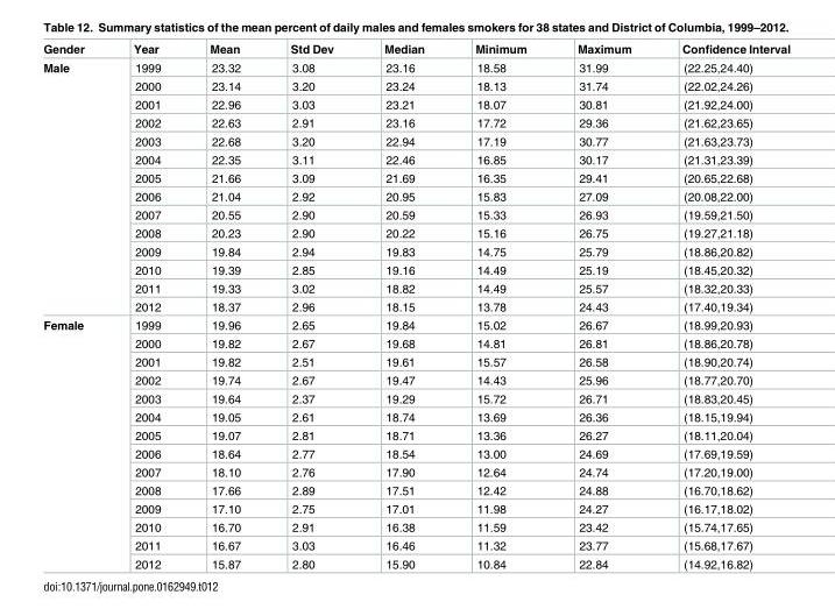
<table><thead><tr><td>Gender</td><td>Year</td><td>Mean</td><td>Std Dev</td><td>Median</td><td>Minimum</td><td>Maximum</td><td>Confidence Interval</td></tr></thead><tbody><tr><td rowspan="14">Male</td><td>1999</td><td>23.32</td><td>3.08</td><td>23.16</td><td>18.58</td><td>31.99</td><td>(22.25,24.40)</td></tr><tr><td>2000</td><td>23.14</td><td>3.20</td><td>23.24</td><td>18.13</td><td>31.74</td><td>(22.02,24.26)</td></tr><tr><td>2001</td><td>22.96</td><td>3.03</td><td>23.21</td><td>18.07</td><td>30.81</td><td>(21.92,24.00)</td></tr><tr><td>2002</td><td>22.63</td><td>2.91</td><td>23.16</td><td>17.72</td><td>29.36</td><td>(21.62,23.65)</td></tr><tr><td>2003</td><td>22.68</td><td>3.20</td><td>22.94</td><td>17.19</td><td>30.77</td><td>(21.63,23.73)</td></tr><tr><td>2004</td><td>22.35</td><td>3.11</td><td>22.46</td><td>16.85</td><td>30.17</td><td>(21.31,23.39)</td></tr><tr><td>2005</td><td>21.66</td><td>3.09</td><td>21.69</td><td>16.35</td><td>29.41</td><td>(20.65,22.68)</td></tr><tr><td>2006</td><td>21.04</td><td>2.92</td><td>20.95</td><td>15.83</td><td>27.09</td><td>(20.08,22.00)</td></tr><tr><td>2007</td><td>20.55</td><td>2.90</td><td>20.59</td><td>15.33</td><td>26.93</td><td>(19.59,21.50)</td></tr><tr><td>2008</td><td>20.23</td><td>2.90</td><td>20.22</td><td>15.16</td><td>26.75</td><td>(19.27,21.18)</td></tr><tr><td>2009</td><td>19.84</td><td>2.94</td><td>19.83</td><td>14.75</td><td>25.79</td><td>(18.86,20.82)</td></tr><tr><td>2010</td><td>19.39</td><td>2.85</td><td>19.16</td><td>14.49</td><td>25.19</td><td>(18.45,20.32)</td></tr><tr><td>2011</td><td>19.33</td><td>3.02</td><td>18.82</td><td>14.49</td><td>25.57</td><td>(18.32,20.33)</td></tr><tr><td>2012</td><td>18.37</td><td>2.96</td><td>18.15</td><td>13.78</td><td>24.43</td><td>(17.40,19.34)</td></tr><tr><td rowspan="14">Female</td><td>1999</td><td>19.96</td><td>2.65</td><td>19.84</td><td>15.02</td><td>26.67</td><td>(18.99,20.93)</td></tr><tr><td>2000</td><td>19.82</td><td>2.67</td><td>19.68</td><td>14.81</td><td>26.81</td><td>(18.86,20.78)</td></tr><tr><td>2001</td><td>19.82</td><td>2.51</td><td>19.61</td><td>15.57</td><td>26.58</td><td>(18.90,20.74)</td></tr><tr><td>2002</td><td>19.74</td><td>2.67</td><td>19.47</td><td>14.43</td><td>25.96</td><td>(18.77,20.70)</td></tr><tr><td>2003</td><td>19.64</td><td>2.37</td><td>19.29</td><td>15.72</td><td>26.71</td><td>(18.83,20.45)</td></tr><tr><td>2004</td><td>19.05</td><td>2.61</td><td>18.74</td><td>13.69</td><td>26.36</td><td>(18.15,19.94)</td></tr><tr><td>2005</td><td>19.07</td><td>2.81</td><td>18.71</td><td>13.36</td><td>26.27</td><td>(18.11,20.04)</td></tr><tr><td>2006</td><td>18.64</td><td>2.77</td><td>18.54</td><td>13.00</td><td>24.69</td><td>(17.69,19.59)</td></tr><tr><td>2007</td><td>18.10</td><td>2.76</td><td>17.90</td><td>12.64</td><td>24.74</td><td>(17.20,19.00)</td></tr><tr><td>2008</td><td>17.66</td><td>2.89</td><td>17.51</td><td>12.42</td><td>24.88</td><td>(16.70,18.62)</td></tr><tr><td>2009</td><td>17.10</td><td>2.75</td><td>17.01</td><td>11.98</td><td>24.27</td><td>(16.17,18.02)</td></tr><tr><td>2010</td><td>16.70</td><td>2.91</td><td>16.38</td><td>11.59</td><td>23.42</td><td>(15.74,17.65)</td></tr><tr><td>2011</td><td>16.67</td><td>3.03</td><td>16.46</td><td>11.32</td><td>23.77</td><td>(15.68,17.67)</td></tr><tr><td>2012</td><td>15.87</td><td>2.80</td><td>15.90</td><td>10.84</td><td>22.84</td><td>(14.92,16.82)</td></tr></tbody></table>